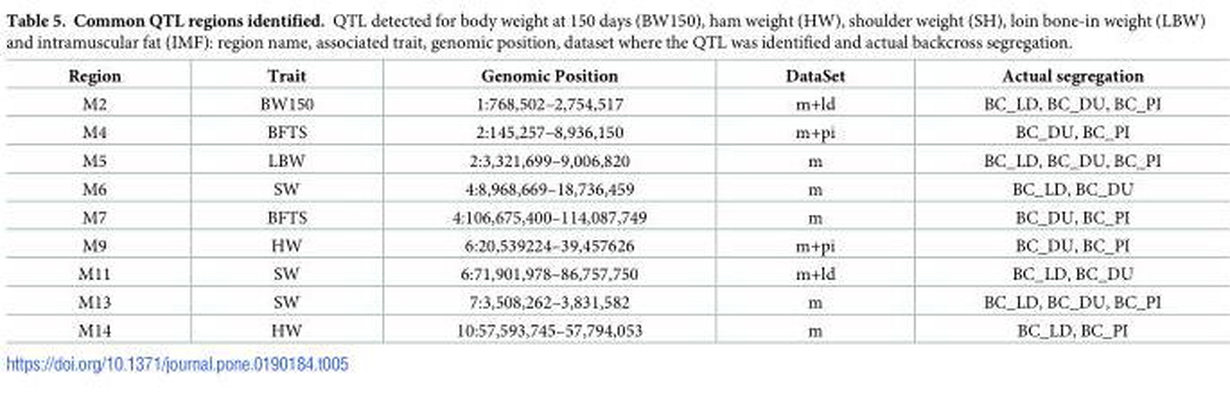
<table><thead><tr><td>Region</td><td>Trait</td><td>Genomic Position</td><td>DataSet</td><td>Actual segregation</td></tr></thead><tbody><tr><td>M2</td><td>BW150</td><td>1:768,502–2,754,517</td><td>m+ld</td><td>BC_LD, BC_DU, BC_PI</td></tr><tr><td>M4</td><td>BFTS</td><td>2:145,257–8,936,150</td><td>m+pi</td><td>BC_DU, BC_PI</td></tr><tr><td>M5</td><td>LBW</td><td>2:3,321,699–9,006,820</td><td>m</td><td>BC_LD, BC_DU, BC_PI</td></tr><tr><td>M6</td><td>SW</td><td>4:8,968,669–18,736,459</td><td>m</td><td>BC_LD, BC_DU</td></tr><tr><td>M7</td><td>BFTS</td><td>4:106,675,400–114,087,749</td><td>m</td><td>BC_DU, BC_PI</td></tr><tr><td>M9</td><td>HW</td><td>6:20,539224–39,457626</td><td>m+pi</td><td>BC_DU, BC_PI</td></tr><tr><td>M11</td><td>SW</td><td>6:71,901,978–86,757,750</td><td>m+ld</td><td>BC_LD, BC_DU</td></tr><tr><td>M13</td><td>SW</td><td>7:3,508,262–3,831,582</td><td>m</td><td>BC_LD, BC_DU, BC_PI</td></tr><tr><td>M14</td><td>HW</td><td>10:57,593,745–57,794,053</td><td>m</td><td>BC_LD, BC_PI</td></tr></tbody></table>